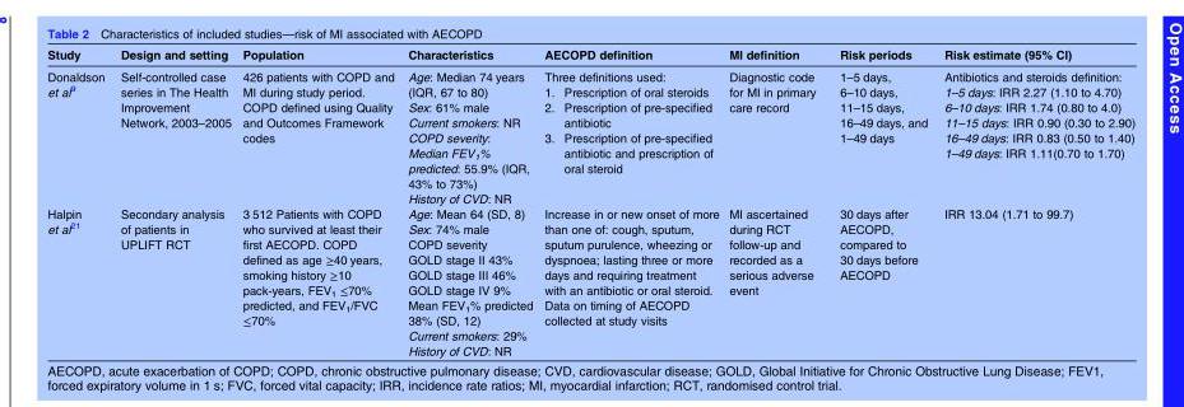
<table><thead><tr><td>Study</td><td>Design and setting</td><td>Population</td><td>Characteristics</td><td>AECOPD definition</td><td>MI definition</td><td>Risk periods</td><td>Risk estimate (95% CI)</td></tr></thead><tbody><tr><td>Donaldson et al<sup>9</sup></td><td>Self-controlled case series in The Health Improvement Network, 2003–2005</td><td>426 patients with COPD and MI during study period. COPD defined using Quality and Outcomes Framework codes</td><td>Age: Median 74 years (IQR, 67 to 80) Sex: 61% male Current smokers: NR COPD severity: Median FEV<sub>1</sub>% predicted: 55.9% (IQR, 43% to 73%) History of CVD: NR</td><td>Three definitions used: 1. Prescription of oral steroids 2. Prescription of pre-specified antibiotic 3. Prescription of pre-specified antibiotic and prescription of oral steroid</td><td>Diagnostic code for MI in primary care record</td><td>1–5 days, 6–10 days, 11–15 days, 16–49 days, and 1–49 days</td><td>Antibiotics and steroids definition: 1–5 days: IRR 2.27 (1.10 to 4.70) 6–10 days: IRR 1.74 (0.80 to 4.0) 11–15 days: IRR 0.90 (0.30 to 2.90) 16–49 days: IRR 0.83 (0.50 to 1.40) 1–49 days: IRR 1.11(0.70 to 1.70)</td></tr><tr><td>Halpin et al<sup>21</sup></td><td>Secondary analysis of patients in UPLIFT RCT</td><td>3 512 Patients with COPD who survived at least their first AECOPD. COPD defined as age ≥40 years, smoking history ≥10 pack-years, FEV<sub>1</sub> ≤70% predicted, and FEV<sub>1</sub>/FVC ≤70%</td><td>Age: Mean 64 (SD, 8) Sex: 74% male COPD severity GOLD stage II 43% GOLD stage III 46% GOLD stage IV 9% Mean FEV<sub>1</sub>% predicted 38% (SD, 12) Current smokers: 29% History of CVD: NR</td><td>Increase in or new onset of more than one of: cough, sputum, sputum purulence, wheezing or dyspnoea; lasting three or more days and requiring treatment with an antibiotic or oral steroid. Data on timing of AECOPD collected at study visits</td><td>MI ascertained during RCT follow-up and recorded as a serious adverse event</td><td>30 days after AECOPD, compared to 30 days before AECOPD</td><td>IRR 13.04 (1.71 to 99.7)</td></tr></tbody></table>